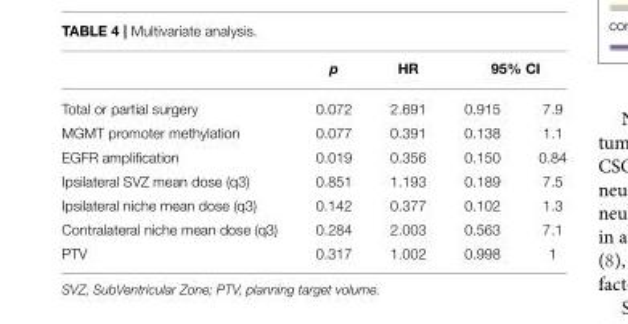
<table><thead><tr><td rowspan="2">Total or partial surgery</td><td rowspan="2">p 0.072</td><td rowspan="2">HR 2.691</td><td colspan="2">95% CI</td></tr><tr><td>0.915</td><td>7.9</td></tr></thead><tbody><tr><td>MGMT promoter methylation</td><td>0.077</td><td>0.391</td><td>0.138</td><td>1.1</td></tr><tr><td>EGFR amplification</td><td>0.019</td><td>0.356</td><td>0.150</td><td>0.84</td></tr><tr><td>Ipsilateral SVZ mean dose (q3)</td><td>0.851</td><td>1.193</td><td>0.189</td><td>7.5</td></tr><tr><td>Ipsilateral niche mean dose (q3)</td><td>0.142</td><td>0.377</td><td>0.102</td><td>1.3</td></tr><tr><td>Contralateral niche mean dose (q3)</td><td>0.284</td><td>2.003</td><td>0.563</td><td>7.1</td></tr><tr><td>PTV</td><td>0.317</td><td>1.002</td><td>0.998</td><td>1</td></tr></tbody></table>